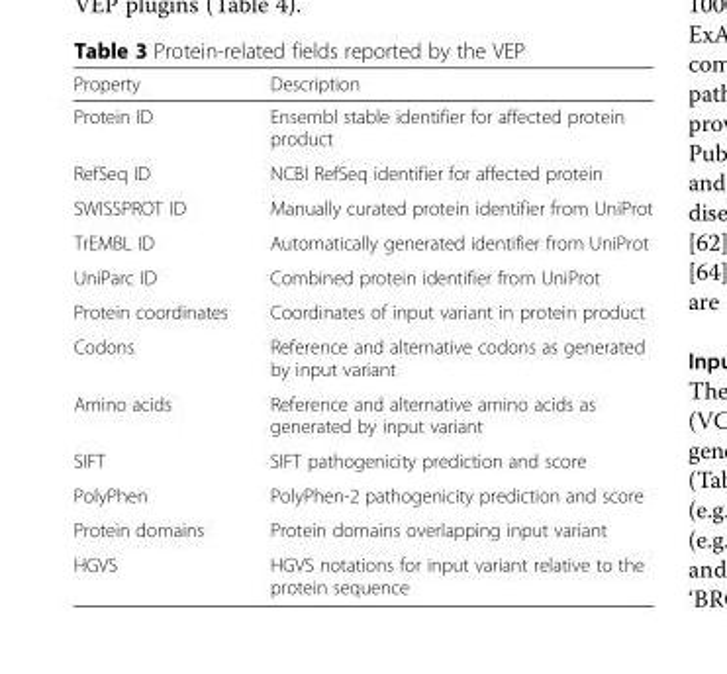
<table><thead><tr><td>Property</td><td>Description</td></tr></thead><tbody><tr><td>Protein ID</td><td>Ensembl stable identifier for affected protein product</td></tr><tr><td>RefSeq ID</td><td>NCBI RefSeq identifier for affected protein</td></tr><tr><td>SWISSPROT ID</td><td>Manually curated protein identifier from UniProt</td></tr><tr><td>TrEMBL ID</td><td>Automatically generated identifier from UniProt</td></tr><tr><td>UniParc ID</td><td>Combined protein identifier from UniProt</td></tr><tr><td>Protein coordinates</td><td>Coordinates of input variant in protein product</td></tr><tr><td>Codons</td><td>Reference and alternative codons as generated by input variant</td></tr><tr><td>Amino acids</td><td>Reference and alternative amino acids as generated by input variant</td></tr><tr><td>SIFT</td><td>SIFT pathogenicity prediction and score</td></tr><tr><td>PolyPhen</td><td>PolyPhen-2 pathogenicity prediction and score</td></tr><tr><td>Protein domains</td><td>Protein domains overlapping input variant</td></tr><tr><td>HGVS</td><td>HGVS notations for input variant relative to the protein sequence</td></tr></tbody></table>